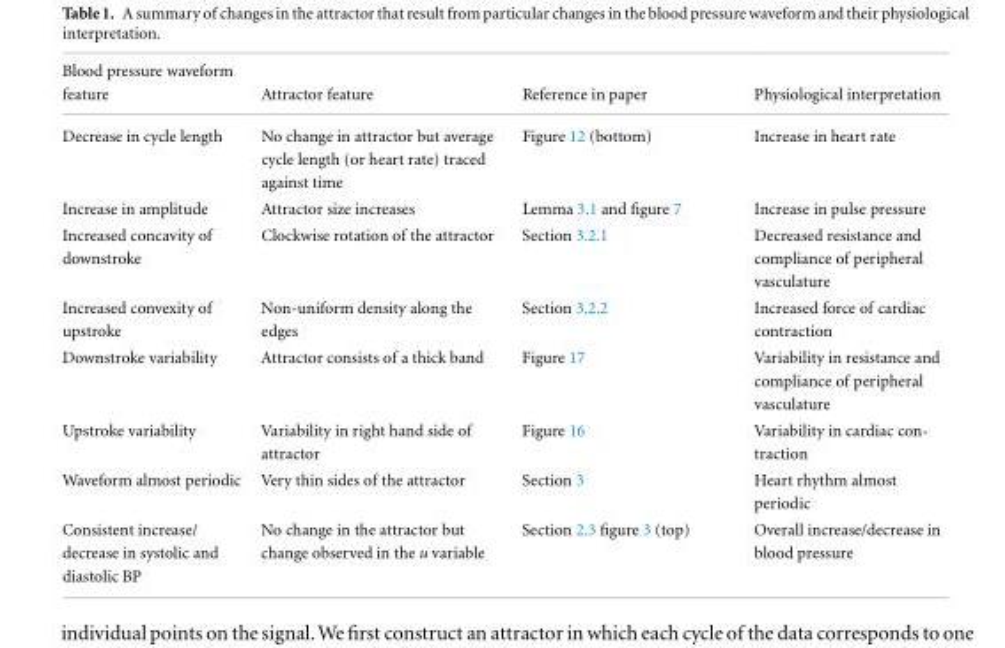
<table><thead><tr><td>Blood pressure waveform feature</td><td>Attractor feature</td><td>Reference in paper</td><td>Physiological interpretation</td></tr></thead><tbody><tr><td>Decrease in cycle length</td><td>No change in attractor but average cycle length (or heart rate) traced against time</td><td>Figure 12 (bottom)</td><td>Increase in heart rate</td></tr><tr><td>Increase in amplitude</td><td>Attractor size increases</td><td>Lemma 3.1 and figure 7</td><td>Increase in pulse pressure</td></tr><tr><td>Increased concavity of downstroke</td><td>Clockwise rotation of the attractor</td><td>Section 3.2.1</td><td>Decreased resistance and compliance of peripheral vasculature</td></tr><tr><td>Increased convexity of upstroke</td><td>Non-uniform density along the edges</td><td>Section 3.2.2</td><td>Increased force of cardiac contraction</td></tr><tr><td>Downstroke variability</td><td>Attractor consists of a thick band</td><td>Figure 17</td><td>Variability in resistance and compliance of peripheral vasculature</td></tr><tr><td>Upstroke variability</td><td>Variability in right hand side of attractor</td><td>Figure 16</td><td>Variability in cardiac con- traction</td></tr><tr><td>Waveform almost periodic</td><td>Very thin sides of the attractor</td><td>Section 3</td><td>Heart rhythm almost periodic</td></tr><tr><td>Consistent increase/ decrease in systolic and diastolic BP</td><td>No change in the attractor but change observed in the u variable</td><td>Section 2.3 figure 3 (top)</td><td>Overall increase/decrease in blood pressure</td></tr></tbody></table>